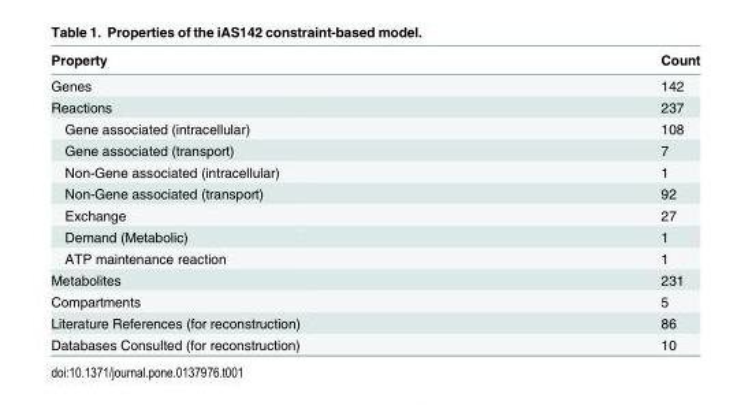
<table><thead><tr><td>Property</td><td>Count</td></tr></thead><tbody><tr><td>Genes</td><td>142</td></tr><tr><td>Reactions</td><td>237</td></tr><tr><td>Gene associated (intracellular)</td><td>108</td></tr><tr><td>Gene associated (transport)</td><td>7</td></tr><tr><td>Non-Gene associated (intracellular)</td><td>1</td></tr><tr><td>Non-Gene associated (transport)</td><td>92</td></tr><tr><td>Exchange</td><td>27</td></tr><tr><td>Demand (Metabolic)</td><td>1</td></tr><tr><td>ATP maintenance reaction</td><td>1</td></tr><tr><td>Metabolites</td><td>231</td></tr><tr><td>Compartments</td><td>5</td></tr><tr><td>Literature References (for reconstruction)</td><td>86</td></tr><tr><td>Databases Consulted (for reconstruction)</td><td>10</td></tr></tbody></table>